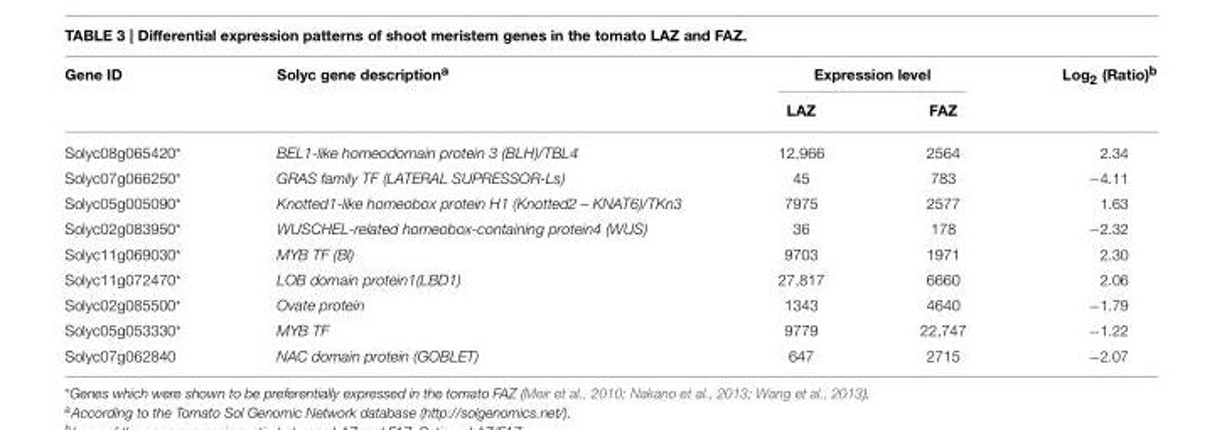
<table><thead><tr><td rowspan="2">Gene ID</td><td rowspan="2">Solyc gene description<sup>a</sup></td><td colspan="2">Expression level</td><td rowspan="2">Log<sub>2</sub> (Ratio)<sup>b</sup></td></tr><tr><td>LAZ</td><td>FAZ</td></tr></thead><tbody><tr><td>Solyc08g065420*</td><td>BEL1-like homeodomain protein 3 (BLH)/TBL4</td><td>12,966</td><td>2564</td><td>2.34</td></tr><tr><td>Solyc07g066250*</td><td>GRAS family TF (LATERAL SUPRESSOR-Ls)</td><td>45</td><td>783</td><td>−4.11</td></tr><tr><td>Solyc05g005090*</td><td>Knotted1-like homeobox protein H1 (Knotted2 – KNAT6)/TKn3</td><td>7975</td><td>2577</td><td>1.63</td></tr><tr><td>Solyc02g083950*</td><td>WUSCHEL-related homeobox-containing protein4 (WUS)</td><td>36</td><td>178</td><td>−2.32</td></tr><tr><td>Solyc11g069030*</td><td>MYB TF (Bl)</td><td>9703</td><td>1971</td><td>2.30</td></tr><tr><td>Solyc11g072470*</td><td>LOB domain protein1(LBD1)</td><td>27,817</td><td>6660</td><td>2.06</td></tr><tr><td>Solyc02g085500*</td><td>Ovate protein</td><td>1343</td><td>4640</td><td>−1.79</td></tr><tr><td>Solyc05g053330*</td><td>MYB TF</td><td>9779</td><td>22,747</td><td>−1.22</td></tr><tr><td>Solyc07g062840</td><td>NAC domain protein (GOBLET)</td><td>647</td><td>2715</td><td>−2.07</td></tr></tbody></table>